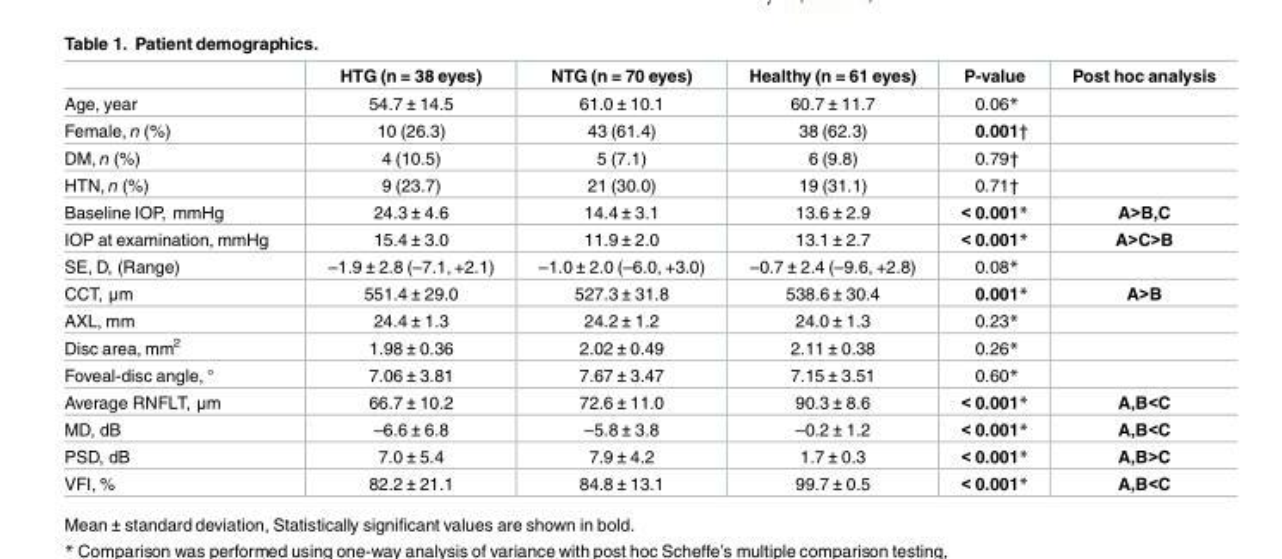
<table><thead><tr><td></td><td>HTG (n = 38 eyes)</td><td>NTG (n = 70 eyes)</td><td>Healthy (n = 61 eyes)</td><td>P-value</td><td>Post hoc analysis</td></tr></thead><tbody><tr><td>Age, year</td><td>54.7 ± 14.5</td><td>61.0 ± 10.1</td><td>60.7 ± 11.7</td><td>0.06*</td><td></td></tr><tr><td>Female, n (%)</td><td>10 (26.3)</td><td>43 (61.4)</td><td>38 (62.3)</td><td>0.001†</td><td></td></tr><tr><td>DM, n (%)</td><td>4 (10.5)</td><td>5 (7.1)</td><td>6 (9.8)</td><td>0.79†</td><td></td></tr><tr><td>HTN, n (%)</td><td>9 (23.7)</td><td>21 (30.0)</td><td>19 (31.1)</td><td>0.71†</td><td></td></tr><tr><td>Baseline IOP, mmHg</td><td>24.3 ± 4.6</td><td>14.4 ± 3.1</td><td>13.6 ± 2.9</td><td>&lt; 0.001*</td><td>A&gt;B,C</td></tr><tr><td>IOP at examination, mmHg</td><td>15.4 ± 3.0</td><td>11.9 ± 2.0</td><td>13.1 ± 2.7</td><td>&lt; 0.001*</td><td>A&gt;C&gt;B</td></tr><tr><td>SE, D, (Range)</td><td>–1.9 ± 2.8 (–7.1, +2.1)</td><td>–1.0 ± 2.0 (–6.0, +3.0)</td><td>–0.7 ± 2.4 (–9.6, +2.8)</td><td>0.08*</td><td></td></tr><tr><td>CCT, μm</td><td>551.4 ± 29.0</td><td>527.3 ± 31.8</td><td>538.6 ± 30.4</td><td>0.001*</td><td>A&gt;B</td></tr><tr><td>AXL, mm</td><td>24.4 ± 1.3</td><td>24.2 ± 1.2</td><td>24.0 ± 1.3</td><td>0.23*</td><td></td></tr><tr><td>Disc area, mm<sup>2</sup></td><td>1.98 ± 0.36</td><td>2.02 ± 0.49</td><td>2.11 ± 0.38</td><td>0.26*</td><td></td></tr><tr><td>Foveal-disc angle, °</td><td>7.06 ± 3.81</td><td>7.67 ± 3.47</td><td>7.15 ± 3.51</td><td>0.60*</td><td></td></tr><tr><td>Average RNFLT, μm</td><td>66.7 ± 10.2</td><td>72.6 ± 11.0</td><td>90.3 ± 8.6</td><td>&lt; 0.001*</td><td>A,B&lt;C</td></tr><tr><td>MD, dB</td><td>–6.6 ± 6.8</td><td>–5.8 ± 3.8</td><td>–0.2 ± 1.2</td><td>&lt; 0.001*</td><td>A,B&lt;C</td></tr><tr><td>PSD, dB</td><td>7.0 ± 5.4</td><td>7.9 ± 4.2</td><td>1.7 ± 0.3</td><td>&lt; 0.001*</td><td>A,B&gt;C</td></tr><tr><td>VFI, %</td><td>82.2 ± 21.1</td><td>84.8 ± 13.1</td><td>99.7 ± 0.5</td><td>&lt; 0.001*</td><td>A,B&lt;C</td></tr></tbody></table>